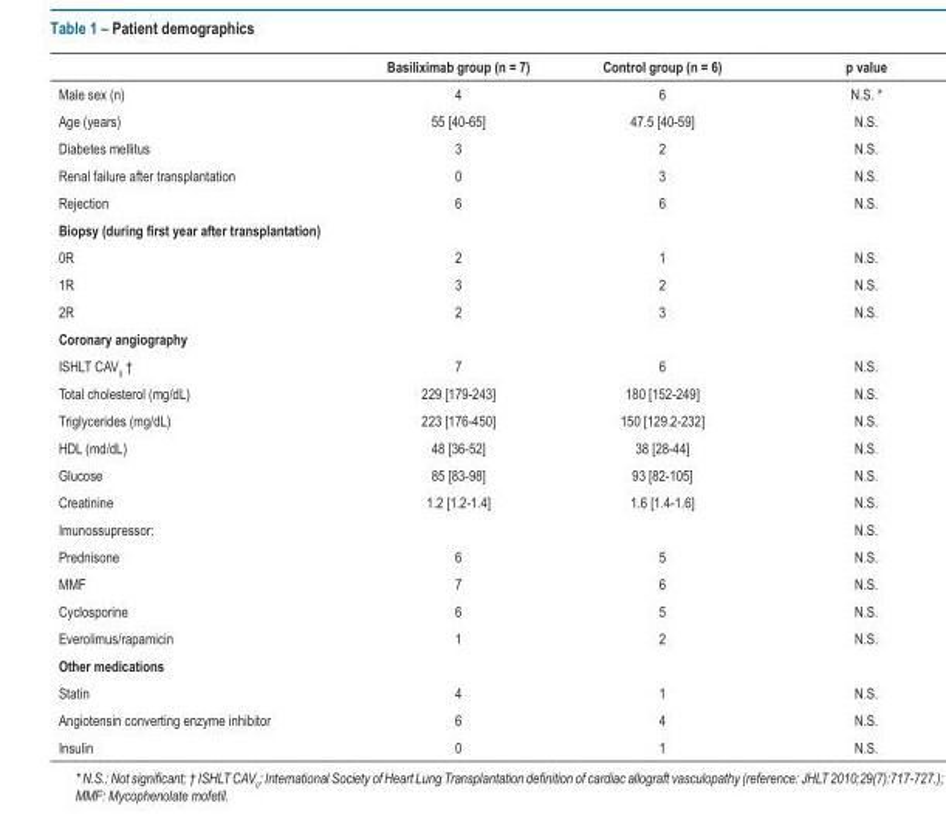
<table><thead><tr><td></td><td>Basiliximab group (n = 7)</td><td>Control group (n = 6)</td><td>p value</td></tr></thead><tbody><tr><td>Male sex (n)</td><td>4</td><td>6</td><td>N.S. *</td></tr><tr><td>Age (years)</td><td>55 [40-65]</td><td>47.5 [40-59]</td><td>N.S.</td></tr><tr><td>Diabetes mellitus</td><td>3</td><td>2</td><td>N.S.</td></tr><tr><td>Renal failure after transplantation</td><td>0</td><td>3</td><td>N.S.</td></tr><tr><td>Rejection</td><td>6</td><td>6</td><td>N.S.</td></tr><tr><td colspan="4">Biopsy (during first year after transplantation)</td></tr><tr><td>0R</td><td>2</td><td>1</td><td>N.S.</td></tr><tr><td>1R</td><td>3</td><td>2</td><td>N.S.</td></tr><tr><td>2R</td><td>2</td><td>3</td><td>N.S.</td></tr><tr><td colspan="4">Coronary angiography</td></tr><tr><td>ISHLT CAV<sub>0</sub> †</td><td>7</td><td>6</td><td>N.S.</td></tr><tr><td>Total cholesterol (mg/dL)</td><td>229 [179-243]</td><td>180 [152-249]</td><td>N.S.</td></tr><tr><td>Triglycerides (mg/dL)</td><td>223 [176-450]</td><td>150 [129.2-232]</td><td>N.S.</td></tr><tr><td>HDL (md/dL)</td><td>48 [36-52]</td><td>38 [28-44]</td><td>N.S.</td></tr><tr><td>Glucose</td><td>85 [83-98]</td><td>93 [82-105]</td><td>N.S.</td></tr><tr><td>Creatinine</td><td>1.2 [1.2-1.4]</td><td>1.6 [1.4-1.6]</td><td>N.S.</td></tr><tr><td colspan="2">Imunossupressor:</td><td></td><td>N.S.</td></tr><tr><td>Prednisone</td><td>6</td><td>5</td><td>N.S.</td></tr><tr><td>MMF</td><td>7</td><td>6</td><td>N.S.</td></tr><tr><td>Cyclosporine</td><td>6</td><td>5</td><td>N.S.</td></tr><tr><td>Everolimus/rapamicin</td><td>1</td><td>2</td><td>N.S.</td></tr><tr><td colspan="4">Other medications</td></tr><tr><td>Statin</td><td>4</td><td>1</td><td>N.S.</td></tr><tr><td>Angiotensin converting enzyme inhibitor</td><td>6</td><td>4</td><td>N.S.</td></tr><tr><td>Insulin</td><td>0</td><td>1</td><td>N.S.</td></tr></tbody></table>